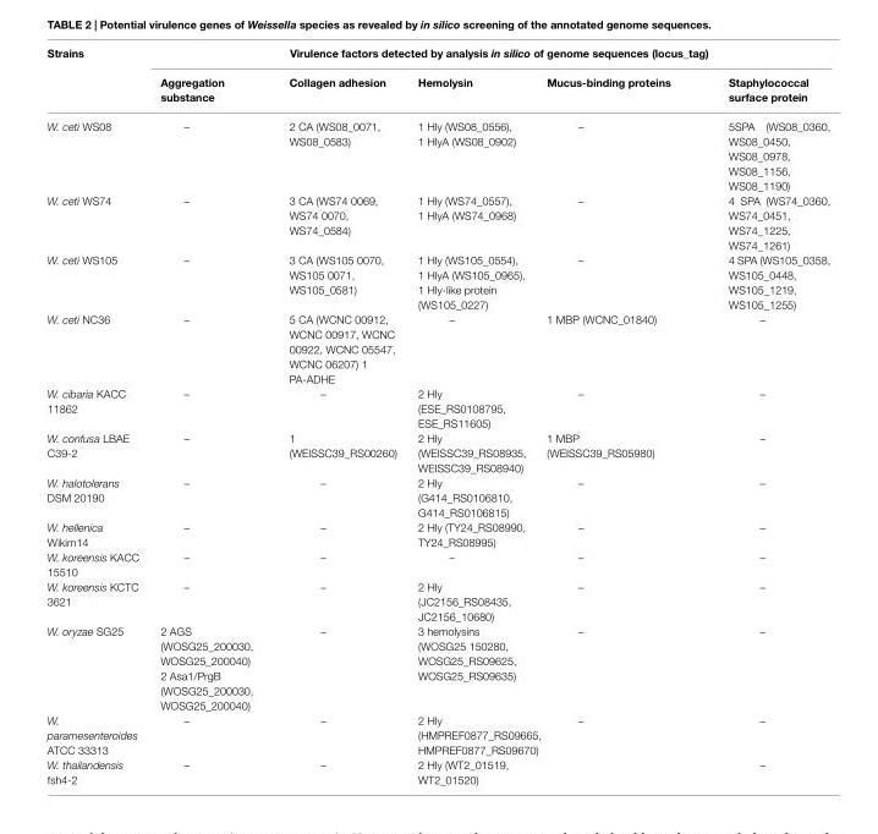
<table><thead><tr><td rowspan="2">Strains</td><td rowspan="2">Aggregation substance</td><td colspan="3">Virulence factors detected by analysis in silico of genome sequences (locus_tag)</td><td rowspan="2">Staphylococcal surface protein</td></tr><tr><td>Collagen adhesion</td><td>Hemolysin</td><td>Mucus-binding proteins</td></tr></thead><tbody><tr><td>W. ceti WS08</td><td>–</td><td>2 CA (WS08_0071, WS08_0583)</td><td>1 Hly (WS08_0556), 1 HlyA (WS08_0902)</td><td>–</td><td>5SPA (WS08_0360, WS08_0450, WS08_0978, WS08_1156, WS08_1190)</td></tr><tr><td>W. ceti WS74</td><td>–</td><td>3 CA (WS74 0069, WS74 0070, WS74_0584)</td><td>1 Hly (WS74_0557), 1 HlyA (WS74_0968)</td><td>–</td><td>4 SPA (WS74_0360, WS74_0451, WS74_1225, WS74_1261)</td></tr><tr><td>W. ceti WS105</td><td>–</td><td>3 CA (WS105 0070, WS105 0071, WS105_0581)</td><td>1 Hly (WS105_0554), 1 HlyA (WS105_0965), 1 Hly-like protein (WS105_0227)</td><td>–</td><td>4 SPA (WS105_0358, WS105_0448, WS105_1219, WS105_1255)</td></tr><tr><td>W. ceti NC36</td><td>–</td><td>5 CA (WCNC 00912, WCNC 00917, WCNC 00922, WCNC 05547, WCNC 06207) 1 PA-ADHE</td><td>–</td><td>1 MBP (WCNC_01840)</td><td>–</td></tr><tr><td>W. cibaria KACC 11862</td><td>–</td><td>–</td><td>2 Hly (ESE_RS0108795, ESE_RS11605)</td><td>–</td><td>–</td></tr><tr><td>W. confusa LBAE C39-2</td><td>–</td><td>1 (WEISSC39_RS00260)</td><td>2 Hly (WEISSC39_RS08935, WEISSC39_RS08940)</td><td>1 MBP (WEISSC39_RS05980)</td><td>–</td></tr><tr><td>W. halotolerans DSM 20190</td><td>–</td><td>–</td><td>2 Hly (G414_RS0106810, G414_RS0106815)</td><td>–</td><td>–</td></tr><tr><td>W. hellenica Wikim14</td><td>–</td><td>–</td><td>2 Hly (TY24_RS08990, TY24_RS08995)</td><td>–</td><td>–</td></tr><tr><td>W. koreensis KACC 15510</td><td>–</td><td>–</td><td>–</td><td>–</td><td>–</td></tr><tr><td>W. koreensis KCTC 3621</td><td>–</td><td>–</td><td>2 Hly (JC2156_RS08435, JC2156_10680)</td><td>–</td><td>–</td></tr><tr><td>W. oryzae SG25</td><td>2 AGS (WOSG25_200030, WOSG25_200040) 2 Asa1/PrgB (WOSG25_200030, WOSG25_200040)</td><td>–</td><td>3 hemolysins (WOSG25 150280, WOSG25_RS09625, WOSG25_RS09635)</td><td>–</td><td>–</td></tr><tr><td>W. paramesenteroides ATCC 33313</td><td>–</td><td>–</td><td>2 Hly (HMPREF0877_RS09665, HMPREF0877_RS09670)</td><td>–</td><td>–</td></tr><tr><td>W. thailandensis fsh4-2</td><td>–</td><td>–</td><td>2 Hly (WT2_01519, WT2_01520)</td><td></td><td>–</td></tr></tbody></table>